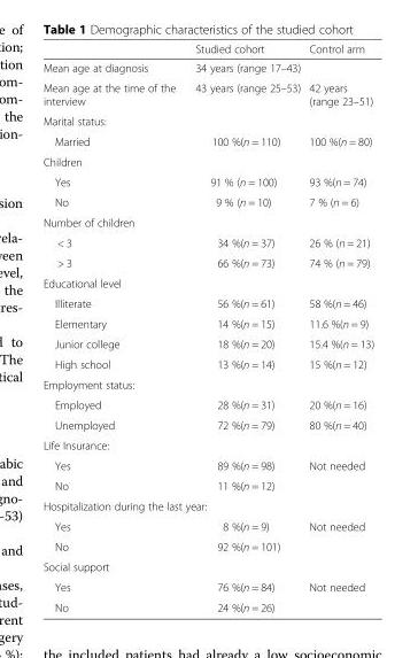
<table><thead><tr><td></td><td>Studied cohort</td><td>Control arm</td></tr></thead><tbody><tr><td>Mean age at diagnosis</td><td>34 years (range 17–43)</td><td></td></tr><tr><td>Mean age at the time of the interview</td><td>43 years (range 25–53)</td><td>42 years (range 23–51)</td></tr><tr><td colspan="3">Marital status:</td></tr><tr><td>Married</td><td>100 %(n = 110)</td><td>100 %(n = 80)</td></tr><tr><td colspan="3">Children</td></tr><tr><td>Yes</td><td>91 % (n = 100)</td><td>93 %(n = 74)</td></tr><tr><td>No</td><td>9 % (n = 10)</td><td>7 % (n = 6)</td></tr><tr><td colspan="3">Number of children</td></tr><tr><td>&lt; 3</td><td>34 %(n = 37)</td><td>26 % (n = 21)</td></tr><tr><td>&gt; 3</td><td>66 %(n = 73)</td><td>74 % (n = 79)</td></tr><tr><td colspan="3">Educational level</td></tr><tr><td>Illiterate</td><td>56 %(n = 61)</td><td>58 %(n = 46)</td></tr><tr><td>Elementary</td><td>14 %(n = 15)</td><td>11.6 %(n = 9)</td></tr><tr><td>Junior college</td><td>18 %(n = 20)</td><td>15.4 %(n = 13)</td></tr><tr><td>High school</td><td>13 %(n = 14)</td><td>15 %(n = 12)</td></tr><tr><td colspan="3">Employment status:</td></tr><tr><td>Employed</td><td>28 %(n = 31)</td><td>20 %(n = 16)</td></tr><tr><td>Unemployed</td><td>72 %(n = 79)</td><td>80 %(n = 40)</td></tr><tr><td colspan="3">Life Insurance:</td></tr><tr><td>Yes</td><td>89 %(n = 98)</td><td>Not needed</td></tr><tr><td>No</td><td>11 %(n = 12)</td><td></td></tr><tr><td colspan="3">Hospitalization during the last year:</td></tr><tr><td>Yes</td><td>8 %(n = 9)</td><td>Not needed</td></tr><tr><td>No</td><td>92 %(n = 101)</td><td></td></tr><tr><td colspan="3">Social support</td></tr><tr><td>Yes</td><td>76 %(n = 84)</td><td>Not needed</td></tr><tr><td>No</td><td>24 %(n = 26)</td><td></td></tr></tbody></table>